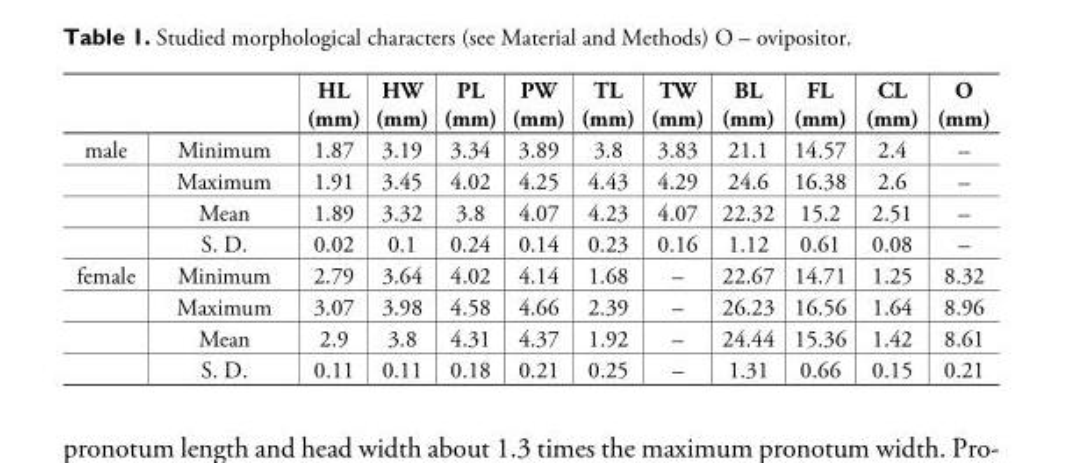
<table><thead><tr><td></td><td></td><td>HL (mm)</td><td>HW (mm)</td><td>PL (mm)</td><td>PW (mm)</td><td>TL (mm)</td><td>TW (mm)</td><td>BL (mm)</td><td>FL (mm)</td><td>CL (mm)</td><td>O (mm)</td></tr></thead><tbody><tr><td rowspan="4">male</td><td>Minimum</td><td>1.87</td><td>3.19</td><td>3.34</td><td>3.89</td><td>3.8</td><td>3.83</td><td>21.1</td><td>14.57</td><td>2.4</td><td>–</td></tr><tr><td>Maximum</td><td>1.91</td><td>3.45</td><td>4.02</td><td>4.25</td><td>4.43</td><td>4.29</td><td>24.6</td><td>16.38</td><td>2.6</td><td>–</td></tr><tr><td>Mean</td><td>1.89</td><td>3.32</td><td>3.8</td><td>4.07</td><td>4.23</td><td>4.07</td><td>22.32</td><td>15.2</td><td>2.51</td><td>–</td></tr><tr><td>S. D.</td><td>0.02</td><td>0.1</td><td>0.24</td><td>0.14</td><td>0.23</td><td>0.16</td><td>1.12</td><td>0.61</td><td>0.08</td><td>–</td></tr><tr><td rowspan="4">female</td><td>Minimum</td><td>2.79</td><td>3.64</td><td>4.02</td><td>4.14</td><td>1.68</td><td>–</td><td>22.67</td><td>14.71</td><td>1.25</td><td>8.32</td></tr><tr><td>Maximum</td><td>3.07</td><td>3.98</td><td>4.58</td><td>4.66</td><td>2.39</td><td>–</td><td>26.23</td><td>16.56</td><td>1.64</td><td>8.96</td></tr><tr><td>Mean</td><td>2.9</td><td>3.8</td><td>4.31</td><td>4.37</td><td>1.92</td><td>–</td><td>24.44</td><td>15.36</td><td>1.42</td><td>8.61</td></tr><tr><td>S. D.</td><td>0.11</td><td>0.11</td><td>0.18</td><td>0.21</td><td>0.25</td><td>–</td><td>1.31</td><td>0.66</td><td>0.15</td><td>0.21</td></tr></tbody></table>